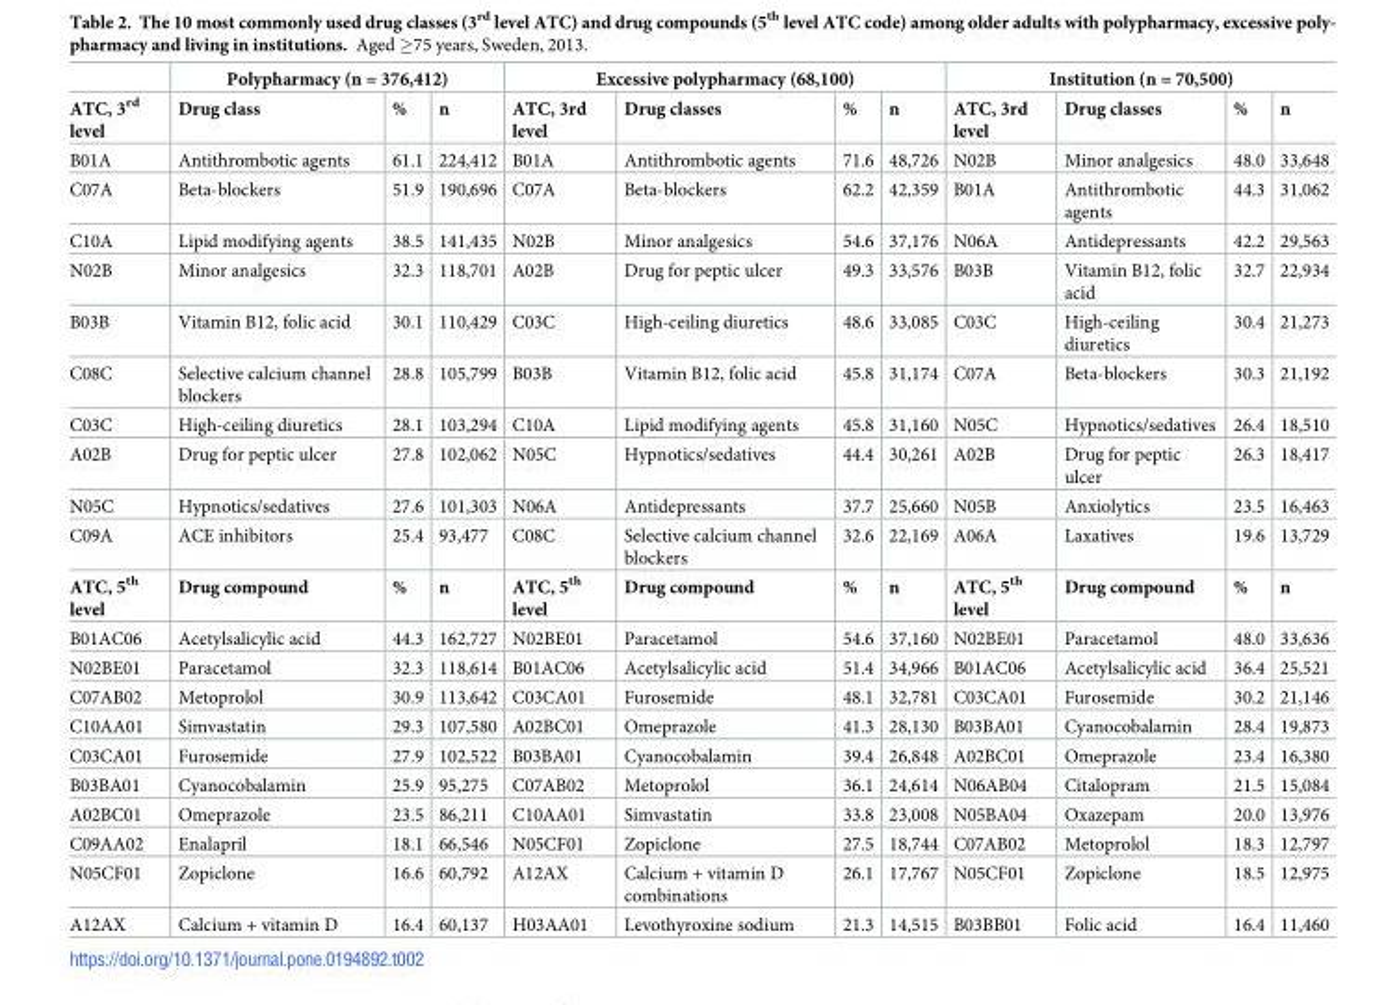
<table><thead><tr><td rowspan="2">ATC, 3rd level</td><td colspan="3">Polypharmacy (n = 376,412)</td><td colspan="4">Excessive polypharmacy (68,100)</td><td colspan="4">Institution (n = 70,500)</td></tr><tr><td>Drug class</td><td>%</td><td>n</td><td>ATC, 3rd level</td><td>Drug classes</td><td>%</td><td>n</td><td>ATC, 3rd level</td><td>Drug classes</td><td>%</td><td>n</td></tr></thead><tbody><tr><td>B01A</td><td>Antithrombotic agents</td><td>61.1</td><td>224,412</td><td>B01A</td><td>Antithrombotic agents</td><td>71.6</td><td>48,726</td><td>N02B</td><td>Minor analgesics</td><td>48.0</td><td>33,648</td></tr><tr><td>C07A</td><td>Beta-blockers</td><td>51.9</td><td>190,696</td><td>C07A</td><td>Beta-blockers</td><td>62.2</td><td>42,359</td><td>B01A</td><td>Antithrombotic agents</td><td>44.3</td><td>31,062</td></tr><tr><td>C10A</td><td>Lipid modifying agents</td><td>38.5</td><td>141,435</td><td>N02B</td><td>Minor analgesics</td><td>54.6</td><td>37,176</td><td>N06A</td><td>Antidepressants</td><td>42.2</td><td>29,563</td></tr><tr><td>N02B</td><td>Minor analgesics</td><td>32.3</td><td>118,701</td><td>A02B</td><td>Drug for peptic ulcer</td><td>49.3</td><td>33,576</td><td>B03B</td><td>Vitamin B12, folic acid</td><td>32.7</td><td>22,934</td></tr><tr><td>B03B</td><td>Vitamin B12, folic acid</td><td>30.1</td><td>110,429</td><td>C03C</td><td>High-ceiling diuretics</td><td>48.6</td><td>33,085</td><td>C03C</td><td>High-ceiling diuretics</td><td>30.4</td><td>21,273</td></tr><tr><td>C08C</td><td>Selective calcium channel blockers</td><td>28.8</td><td>105,799</td><td>B03B</td><td>Vitamin B12, folic acid</td><td>45.8</td><td>31,174</td><td>C07A</td><td>Beta-blockers</td><td>30.3</td><td>21,192</td></tr><tr><td>C03C</td><td>High-ceiling diuretics</td><td>28.1</td><td>103,294</td><td>C10A</td><td>Lipid modifying agents</td><td>45.8</td><td>31,160</td><td>N05C</td><td>Hypnotics/sedatives</td><td>26.4</td><td>18,510</td></tr><tr><td>A02B</td><td>Drug for peptic ulcer</td><td>27.8</td><td>102,062</td><td>N05C</td><td>Hypnotics/sedatives</td><td>44.4</td><td>30,261</td><td>A02B</td><td>Drug for peptic ulcer</td><td>26.3</td><td>18,417</td></tr><tr><td>N05C</td><td>Hypnotics/sedatives</td><td>27.6</td><td>101,303</td><td>N06A</td><td>Antidepressants</td><td>37.7</td><td>25,660</td><td>N05B</td><td>Anxiolytics</td><td>23.5</td><td>16,463</td></tr><tr><td>C09A</td><td>ACE inhibitors</td><td>25.4</td><td>93,477</td><td>C08C</td><td>Selective calcium channel blockers</td><td>32.6</td><td>22,169</td><td>A06A</td><td>Laxatives</td><td>19.6</td><td>13,729</td></tr><tr><td>ATC, 5<sup>th</sup> level</td><td>Drug compound</td><td>%</td><td>n</td><td>ATC, 5<sup>th</sup> level</td><td>Drug compound</td><td>%</td><td>n</td><td>ATC, 5<sup>th</sup> level</td><td>Drug compound</td><td>%</td><td>n</td></tr><tr><td>B01AC06</td><td>Acetylsalicylic acid</td><td>44.3</td><td>162,727</td><td>N02BE01</td><td>Paracetamol</td><td>54.6</td><td>37,160</td><td>N02BE01</td><td>Paracetamol</td><td>48.0</td><td>33,636</td></tr><tr><td>N02BE01</td><td>Paracetamol</td><td>32.3</td><td>118,614</td><td>B01AC06</td><td>Acetylsalicylic acid</td><td>51.4</td><td>34,966</td><td>B01AC06</td><td>Acetylsalicylic acid</td><td>36.4</td><td>25,521</td></tr><tr><td>C07AB02</td><td>Metoprolol</td><td>30.9</td><td>113,642</td><td>C03CA01</td><td>Furosemide</td><td>48.1</td><td>32,781</td><td>C03CA01</td><td>Furosemide</td><td>30.2</td><td>21,146</td></tr><tr><td>C10AA01</td><td>Simvastatin</td><td>29.3</td><td>107,580</td><td>A02BC01</td><td>Omeprazole</td><td>41.3</td><td>28,130</td><td>B03BA01</td><td>Cyanocobalamin</td><td>28.4</td><td>19,873</td></tr><tr><td>C03CA01</td><td>Furosemide</td><td>27.9</td><td>102,522</td><td>B03BA01</td><td>Cyanocobalamin</td><td>39.4</td><td>26,848</td><td>A02BC01</td><td>Omeprazole</td><td>23.4</td><td>16,380</td></tr><tr><td>B03BA01</td><td>Cyanocobalamin</td><td>25.9</td><td>95,275</td><td>C07AB02</td><td>Metoprolol</td><td>36.1</td><td>24,614</td><td>N06AB04</td><td>Citalopram</td><td>21.5</td><td>15,084</td></tr><tr><td>A02BC01</td><td>Omeprazole</td><td>23.5</td><td>86,211</td><td>C10AA01</td><td>Simvastatin</td><td>33.8</td><td>23,008</td><td>N05BA04</td><td>Oxazepam</td><td>20.0</td><td>13,976</td></tr><tr><td>C09AA02</td><td>Enalapril</td><td>18.1</td><td>66,546</td><td>N05CF01</td><td>Zopiclone</td><td>27.5</td><td>18,744</td><td>C07AB02</td><td>Metoprolol</td><td>18.3</td><td>12,797</td></tr><tr><td>N05CF01</td><td>Zopiclone</td><td>16.6</td><td>60,792</td><td>A12AX</td><td>Calcium + vitamin D combinations</td><td>26.1</td><td>17,767</td><td>N05CF01</td><td>Zopiclone</td><td>18.5</td><td>12,975</td></tr><tr><td>A12AX</td><td>Calcium + vitamin D</td><td>16.4</td><td>60,137</td><td>H03AA01</td><td>Levothyroxine sodium</td><td>21.3</td><td>14,515</td><td>B03BB01</td><td>Folic acid</td><td>16.4</td><td>11,460</td></tr></tbody></table>